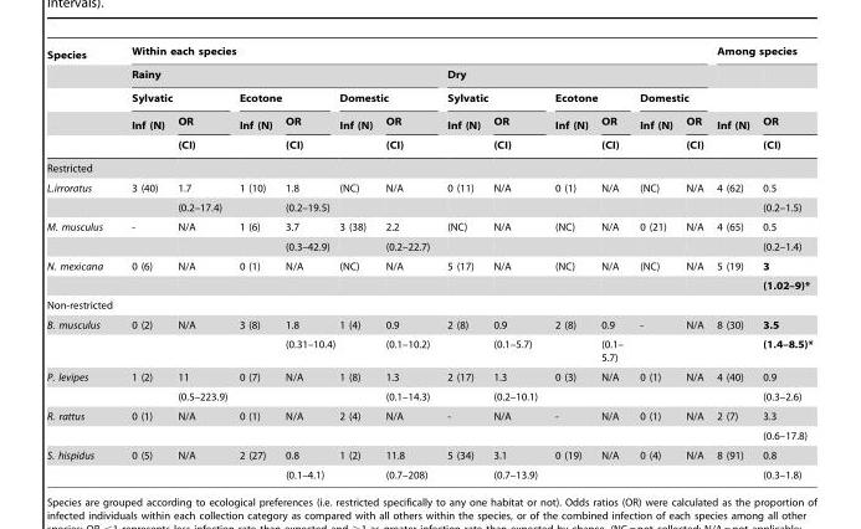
<table><thead><tr><td rowspan="5">Species</td><td colspan="12">Within each species</td><td colspan="2">Among species</td></tr><tr><td colspan="6">Rainy</td><td colspan="6">Dry</td><td rowspan="4">Inf (N)</td><td rowspan="4">OR (CI)</td></tr><tr><td colspan="2">Sylvatic</td><td colspan="2">Ecotone</td><td colspan="2">Domestic</td><td colspan="2">Sylvatic</td><td colspan="2">Ecotone</td><td colspan="2">Domestic</td></tr><tr><td rowspan="2">Inf (N)</td><td rowspan="2">OR (CI)</td><td rowspan="2">Inf (N)</td><td rowspan="2">OR (CI)</td><td rowspan="2">Inf (N)</td><td rowspan="2">OR (CI)</td><td rowspan="2">Inf (N)</td><td rowspan="2">OR (CI)</td><td rowspan="2">Inf (N)</td><td rowspan="2">OR (CI)</td><td rowspan="2">Inf (N)</td><td rowspan="2">OR (CI)</td></tr><tr></tr></thead><tbody><tr><td colspan="15">Restricted</td></tr><tr><td rowspan="2">L.irroratus</td><td>3 (40)</td><td>1.7</td><td>1 (10)</td><td>1.8</td><td>(NC)</td><td>N/A</td><td>0 (11)</td><td>N/A</td><td>0 (1)</td><td>N/A</td><td>(NC)</td><td>N/A</td><td>4 (62)</td><td>0.5</td></tr><tr><td></td><td>(0.2–17.4)</td><td></td><td>(0.2–19.5)</td><td></td><td></td><td></td><td></td><td></td><td></td><td></td><td></td><td></td><td>(0.2–1.5)</td></tr><tr><td rowspan="2">M. musculus</td><td>-</td><td>N/A</td><td>1 (6)</td><td>3.7</td><td>3 (38)</td><td>2.2</td><td>(NC)</td><td>N/A</td><td>(NC)</td><td>N/A</td><td>0 (21)</td><td>N/A</td><td>4 (65)</td><td>0.5</td></tr><tr><td></td><td></td><td></td><td>(0.3–42.9)</td><td></td><td>(0.2–22.7)</td><td></td><td></td><td></td><td></td><td></td><td></td><td></td><td>(0.2–1.4)</td></tr><tr><td rowspan="2">N. mexicana</td><td>0 (6)</td><td>N/A</td><td>0 (1)</td><td>N/A</td><td>(NC)</td><td>N/A</td><td>5 (17)</td><td>N/A</td><td>(NC)</td><td>N/A</td><td>(NC)</td><td>N/A</td><td>5 (19)</td><td>3</td></tr><tr><td></td><td></td><td></td><td></td><td></td><td></td><td></td><td></td><td></td><td></td><td></td><td></td><td></td><td>(1.02–9)*</td></tr><tr><td colspan="15">Non-restricted</td></tr><tr><td rowspan="2">B. musculus</td><td>0 (2)</td><td>N/A</td><td>3 (8)</td><td>1.8</td><td>1 (4)</td><td>0.9</td><td>2 (8)</td><td>0.9</td><td>2 (8)</td><td>0.9</td><td>-</td><td>N/A</td><td>8 (30)</td><td>3.5</td></tr><tr><td></td><td></td><td></td><td>(0.31–10.4)</td><td></td><td>(0.1–10.2)</td><td></td><td>(0.1–5.7)</td><td></td><td>(0.1– 5.7)</td><td></td><td></td><td></td><td>(1.4–8.5)*</td></tr><tr><td rowspan="2">P. levipes</td><td>1 (2)</td><td>11</td><td>0 (7)</td><td>N/A</td><td>1 (8)</td><td>1.3</td><td>2 (17)</td><td>1.3</td><td>0 (3)</td><td>N/A</td><td>0 (1)</td><td>N/A</td><td>4 (40)</td><td>0.9</td></tr><tr><td></td><td>(0.5–223.9)</td><td></td><td></td><td></td><td>(0.1–14.3)</td><td></td><td>(0.2–10.1)</td><td></td><td></td><td></td><td></td><td></td><td>(0.3–2.6)</td></tr><tr><td rowspan="2">R. rattus</td><td>0 (1)</td><td>N/A</td><td>0 (1)</td><td>N/A</td><td>2 (4)</td><td>N/A</td><td>-</td><td>N/A</td><td>-</td><td>N/A</td><td>0 (1)</td><td>N/A</td><td>2 (7)</td><td>3.3</td></tr><tr><td></td><td></td><td></td><td></td><td></td><td></td><td></td><td></td><td></td><td></td><td></td><td></td><td></td><td>(0.6–17.8)</td></tr><tr><td rowspan="2">S. hispidus</td><td>0 (5)</td><td>N/A</td><td>2 (27)</td><td>0.8</td><td>1 (2)</td><td>11.8</td><td>5 (34)</td><td>3.1</td><td>0 (19)</td><td>N/A</td><td>0 (4)</td><td>N/A</td><td>8 (91)</td><td>0.8</td></tr><tr><td></td><td></td><td></td><td>(0.1–4.1)</td><td></td><td>(0.7–208)</td><td></td><td>(0.7–13.9)</td><td></td><td></td><td></td><td></td><td></td><td>(0.3–1.8)</td></tr></tbody></table>